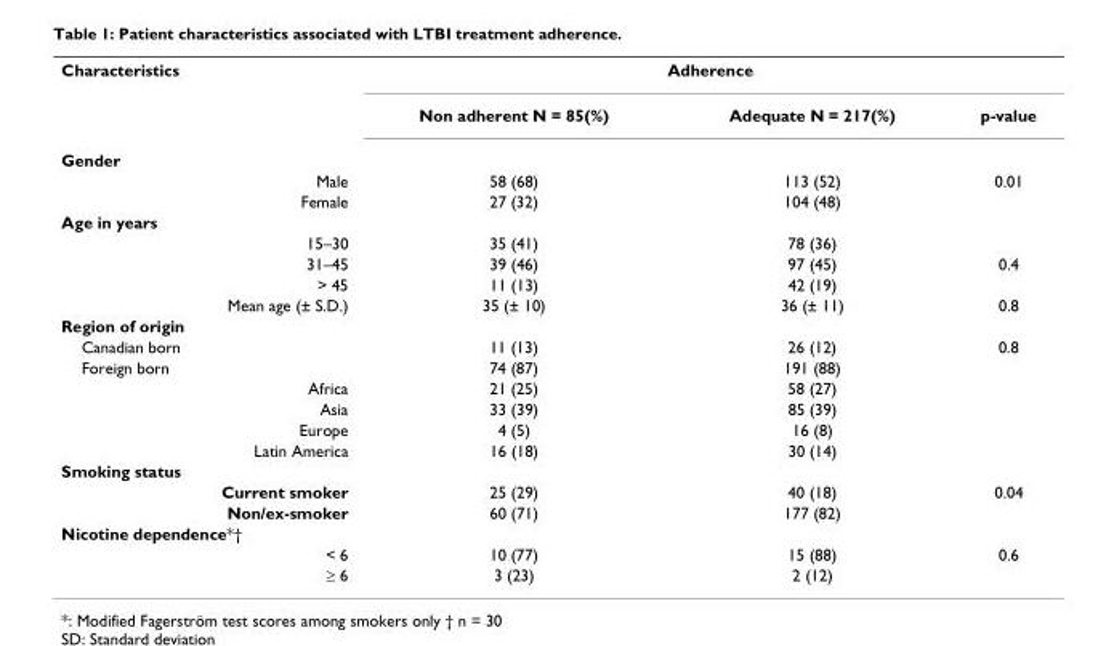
<table><tbody><tr><td rowspan="2">Characteristics</td><td colspan="3">Adherence</td></tr><tr><td>Non adherent N = 85(%)</td><td>Adequate N = 217(%)</td><td>p-value</td></tr><tr><td colspan="4">Gender</td></tr><tr><td>Male</td><td>58 (68)</td><td>113 (52)</td><td>0.01</td></tr><tr><td>Female</td><td>27 (32)</td><td>104 (48)</td><td></td></tr><tr><td colspan="4">Age in years</td></tr><tr><td>15–30</td><td>35 (41)</td><td>78 (36)</td><td></td></tr><tr><td>31–45</td><td>39 (46)</td><td>97 (45)</td><td>0.4</td></tr><tr><td>&gt; 45</td><td>11 (13)</td><td>42 (19)</td><td></td></tr><tr><td>Mean age (± S.D.)</td><td>35 (± 10)</td><td>36 (± 11)</td><td>0.8</td></tr><tr><td colspan="4">Region of origin</td></tr><tr><td>Canadian born</td><td>11 (13)</td><td>26 (12)</td><td>0.8</td></tr><tr><td>Foreign born</td><td>74 (87)</td><td>191 (88)</td><td></td></tr><tr><td>Africa</td><td>21 (25)</td><td>58 (27)</td><td></td></tr><tr><td>Asia</td><td>33 (39)</td><td>85 (39)</td><td></td></tr><tr><td>Europe</td><td>4 (5)</td><td>16 (8)</td><td></td></tr><tr><td>Latin America</td><td>16 (18)</td><td>30 (14)</td><td></td></tr><tr><td colspan="4">Smoking status</td></tr><tr><td>Current smoker</td><td>25 (29)</td><td>40 (18)</td><td>0.04</td></tr><tr><td>Non/ex-smoker</td><td>60 (71)</td><td>177 (82)</td><td></td></tr><tr><td colspan="4">Nicotine dependence*†</td></tr><tr><td>&lt; 6</td><td>10 (77)</td><td>15 (88)</td><td>0.6</td></tr><tr><td>≥ 6</td><td>3 (23)</td><td>2 (12)</td><td></td></tr></tbody></table>